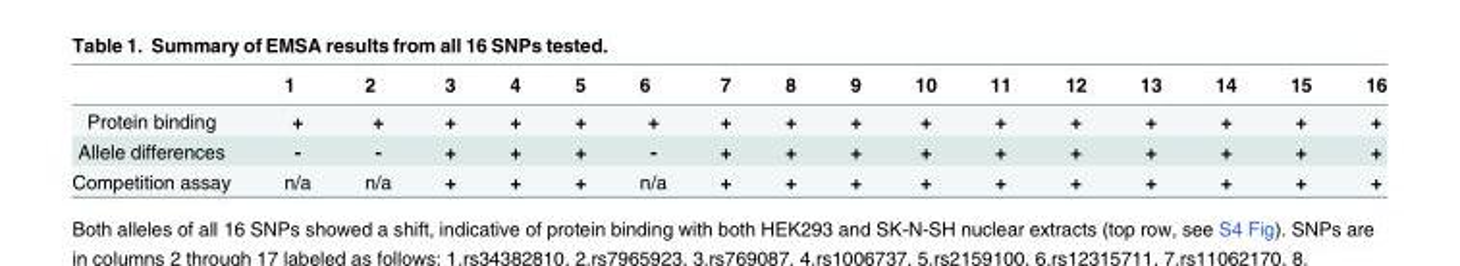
<table><thead><tr><td></td><td>1</td><td>2</td><td>3</td><td>4</td><td>5</td><td>6</td><td>7</td><td>8</td><td>9</td><td>10</td><td>11</td><td>12</td><td>13</td><td>14</td><td>15</td><td>16</td></tr></thead><tbody><tr><td>Protein binding</td><td>+</td><td>+</td><td>+</td><td>+</td><td>+</td><td>+</td><td>+</td><td>+</td><td>+</td><td>+</td><td>+</td><td>+</td><td>+</td><td>+</td><td>+</td><td>+</td></tr><tr><td>Allele differences</td><td>-</td><td>-</td><td>+</td><td>+</td><td>+</td><td>-</td><td>+</td><td>+</td><td>+</td><td>+</td><td>+</td><td>+</td><td>+</td><td>+</td><td>+</td><td>+</td></tr><tr><td>Competition assay</td><td>n/a</td><td>n/a</td><td>+</td><td>+</td><td>+</td><td>n/a</td><td>+</td><td>+</td><td>+</td><td>+</td><td>+</td><td>+</td><td>+</td><td>+</td><td>+</td><td>+</td></tr></tbody></table>